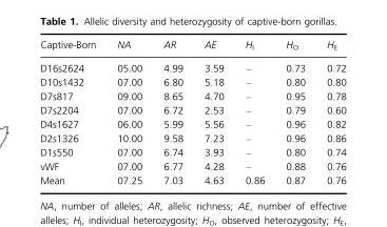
<table><thead><tr><td>Captive-Born</td><td>NA</td><td>AR</td><td>AE</td><td>H<sub>I</sub></td><td>H<sub>O</sub></td><td>H<sub>E</sub></td></tr></thead><tbody><tr><td>D16s2624</td><td>05.00</td><td>4.99</td><td>3.59</td><td>–</td><td>0.73</td><td>0.72</td></tr><tr><td>D10s1432</td><td>07.00</td><td>6.80</td><td>5.18</td><td>–</td><td>0.80</td><td>0.80</td></tr><tr><td>D7s817</td><td>09.00</td><td>8.65</td><td>4.70</td><td>–</td><td>0.95</td><td>0.78</td></tr><tr><td>D7s2204</td><td>07.00</td><td>6.72</td><td>2.53</td><td>–</td><td>0.79</td><td>0.60</td></tr><tr><td>D4s1627</td><td>06.00</td><td>5.99</td><td>5.56</td><td>–</td><td>0.96</td><td>0.82</td></tr><tr><td>D2s1326</td><td>10.00</td><td>9.58</td><td>7.23</td><td>–</td><td>0.96</td><td>0.86</td></tr><tr><td>D1s550</td><td>07.00</td><td>6.74</td><td>3.93</td><td>–</td><td>0.80</td><td>0.74</td></tr><tr><td>vWF</td><td>07.00</td><td>6.77</td><td>4.28</td><td>–</td><td>0.88</td><td>0.76</td></tr><tr><td>Mean</td><td>07.25</td><td>7.03</td><td>4.63</td><td>0.86</td><td>0.87</td><td>0.76</td></tr></tbody></table>